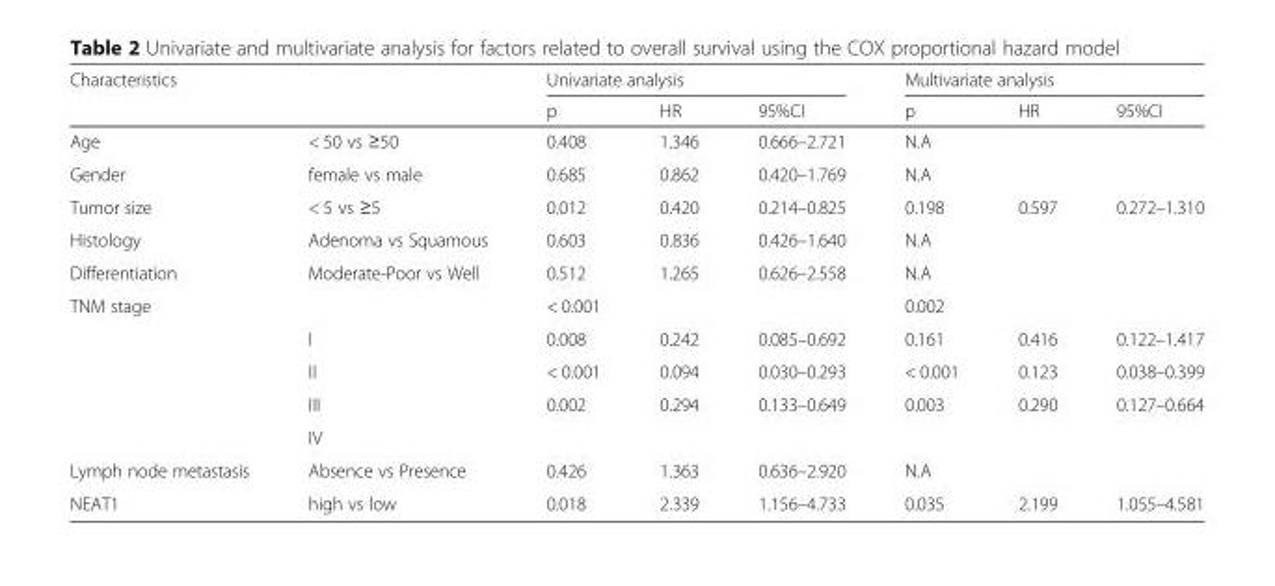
<table><thead><tr><td rowspan="2" colspan="2">Characteristics</td><td colspan="3">Univariate analysis</td><td colspan="3">Multivariate analysis</td></tr><tr><td rowspan="2">p 0.408</td><td rowspan="2">HR 1.346</td><td rowspan="2">95%CI 0.666–2.721</td><td rowspan="2">p N.A</td><td rowspan="2">HR</td><td rowspan="2">95%CI</td></tr><tr><td>Age</td><td>&lt; 50 vs ≥50</td></tr></thead><tbody><tr><td>Gender</td><td>female vs male</td><td>0.685</td><td>0.862</td><td>0.420–1.769</td><td>N.A</td><td></td><td></td></tr><tr><td>Tumor size</td><td>&lt; 5 vs ≥5</td><td>0.012</td><td>0.420</td><td>0.214–0.825</td><td>0.198</td><td>0.597</td><td>0.272–1.310</td></tr><tr><td>Histology</td><td>Adenoma vs Squamous</td><td>0.603</td><td>0.836</td><td>0.426–1.640</td><td>N.A</td><td></td><td></td></tr><tr><td>Differentiation</td><td>Moderate-Poor vs Well</td><td>0.512</td><td>1.265</td><td>0.626–2.558</td><td>N.A</td><td></td><td></td></tr><tr><td rowspan="5">TNM stage</td><td></td><td>&lt; 0.001</td><td></td><td></td><td>0.002</td><td></td><td></td></tr><tr><td>I</td><td>0.008</td><td>0.242</td><td>0.085–0.692</td><td>0.161</td><td>0.416</td><td>0.122–1.417</td></tr><tr><td>II</td><td>&lt; 0.001</td><td>0.094</td><td>0.030–0.293</td><td>&lt; 0.001</td><td>0.123</td><td>0.038–0.399</td></tr><tr><td>III</td><td>0.002</td><td>0.294</td><td>0.133–0.649</td><td>0.003</td><td>0.290</td><td>0.127–0.664</td></tr><tr><td>IV</td><td></td><td></td><td></td><td></td><td></td><td></td></tr><tr><td>Lymph node metastasis</td><td>Absence vs Presence</td><td>0.426</td><td>1.363</td><td>0.636–2.920</td><td>N.A</td><td></td><td></td></tr><tr><td>NEAT1</td><td>high vs low</td><td>0.018</td><td>2.339</td><td>1.156–4.733</td><td>0.035</td><td>2.199</td><td>1.055–4.581</td></tr></tbody></table>